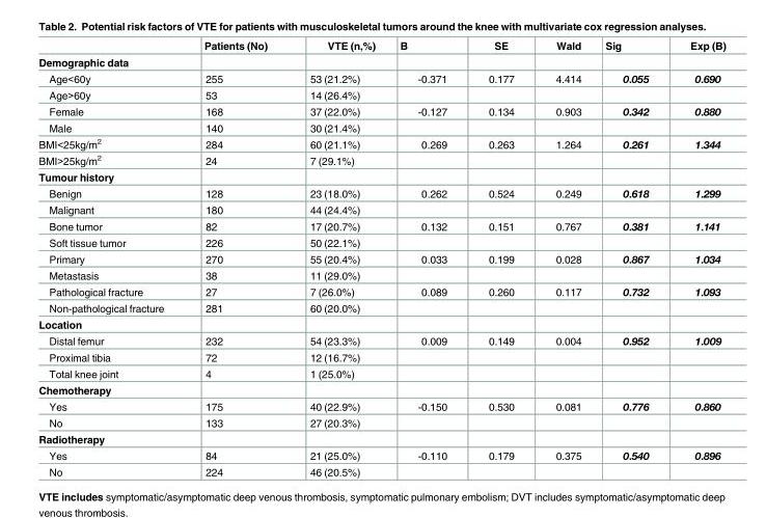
<table><thead><tr><td></td><td>Patients (No)</td><td>VTE (n,%)</td><td>B</td><td>SE</td><td>Wald</td><td>Sig</td><td>Exp (B)</td></tr></thead><tbody><tr><td colspan="8">Demographic data</td></tr><tr><td>Age&lt;60y</td><td>255</td><td>53 (21.2%)</td><td>-0.371</td><td>0.177</td><td>4.414</td><td>0.055</td><td>0.690</td></tr><tr><td>Age&gt;60y</td><td>53</td><td>14 (26.4%)</td><td></td><td></td><td></td><td></td><td></td></tr><tr><td>Female</td><td>168</td><td>37 (22.0%)</td><td>-0.127</td><td>0.134</td><td>0.903</td><td>0.342</td><td>0.880</td></tr><tr><td>Male</td><td>140</td><td>30 (21.4%)</td><td></td><td></td><td></td><td></td><td></td></tr><tr><td>BMI&lt;25kg/m<sup>2</sup></td><td>284</td><td>60 (21.1%)</td><td>0.269</td><td>0.263</td><td>1.264</td><td>0.261</td><td>1.344</td></tr><tr><td>BMI&gt;25kg/m<sup>2</sup></td><td>24</td><td>7 (29.1%)</td><td></td><td></td><td></td><td></td><td></td></tr><tr><td colspan="8">Tumour history</td></tr><tr><td>Benign</td><td>128</td><td>23 (18.0%)</td><td>0.262</td><td>0.524</td><td>0.249</td><td>0.618</td><td>1.299</td></tr><tr><td>Malignant</td><td>180</td><td>44 (24.4%)</td><td></td><td></td><td></td><td></td><td></td></tr><tr><td>Bone tumor</td><td>82</td><td>17 (20.7%)</td><td>0.132</td><td>0.151</td><td>0.767</td><td>0.381</td><td>1.141</td></tr><tr><td>Soft tissue tumor</td><td>226</td><td>50 (22.1%)</td><td></td><td></td><td></td><td></td><td></td></tr><tr><td>Primary</td><td>270</td><td>55 (20.4%)</td><td>0.033</td><td>0.199</td><td>0.028</td><td>0.867</td><td>1.034</td></tr><tr><td>Metastasis</td><td>38</td><td>11 (29.0%)</td><td></td><td></td><td></td><td></td><td></td></tr><tr><td>Pathological fracture</td><td>27</td><td>7 (26.0%)</td><td>0.089</td><td>0.260</td><td>0.117</td><td>0.732</td><td>1.093</td></tr><tr><td>Non-pathological fracture</td><td>281</td><td>60 (20.0%)</td><td></td><td></td><td></td><td></td><td></td></tr><tr><td colspan="8">Location</td></tr><tr><td>Distal femur</td><td>232</td><td>54 (23.3%)</td><td>0.009</td><td>0.149</td><td>0.004</td><td>0.952</td><td>1.009</td></tr><tr><td>Proximal tibia</td><td>72</td><td>12 (16.7%)</td><td></td><td></td><td></td><td></td><td></td></tr><tr><td>Total knee joint</td><td>4</td><td>1 (25.0%)</td><td></td><td></td><td></td><td></td><td></td></tr><tr><td colspan="8">Chemotherapy</td></tr><tr><td>Yes</td><td>175</td><td>40 (22.9%)</td><td>-0.150</td><td>0.530</td><td>0.081</td><td>0.776</td><td>0.860</td></tr><tr><td>No</td><td>133</td><td>27 (20.3%)</td><td></td><td></td><td></td><td></td><td></td></tr><tr><td colspan="8">Radiotherapy</td></tr><tr><td>Yes</td><td>84</td><td>21 (25.0%)</td><td>-0.110</td><td>0.179</td><td>0.375</td><td>0.540</td><td>0.896</td></tr><tr><td>No</td><td>224</td><td>46 (20.5%)</td><td></td><td></td><td></td><td></td><td></td></tr></tbody></table>